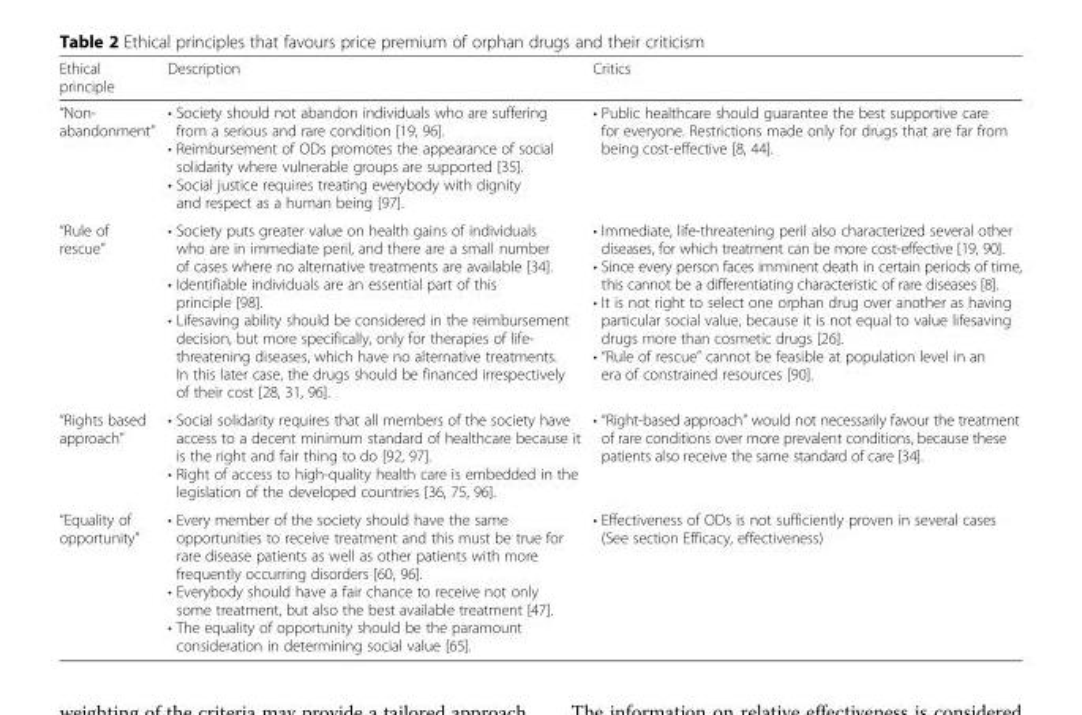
<table><thead><tr><td>Ethical principle</td><td>Description</td><td>Critics</td></tr></thead><tbody><tr><td>“Non- abandonment”</td><td>• Society should not abandon individuals who are suffering from a serious and rare condition [19, 96]. • Reimbursement of ODs promotes the appearance of social solidarity where vulnerable groups are supported [35]. • Social justice requires treating everybody with dignity and respect as a human being [97].</td><td>• Public healthcare should guarantee the best supportive care for everyone. Restrictions made only for drugs that are far from being cost-effective [8, 44].</td></tr><tr><td>“Rule of rescue”</td><td>• Society puts greater value on health gains of individuals who are in immediate peril, and there are a small number of cases where no alternative treatments are available [34]. • Identifiable individuals are an essential part of this principle [98]. • Lifesaving ability should be considered in the reimbursement decision, but more specifically, only for therapies of life- threatening diseases, which have no alternative treatments. In this later case, the drugs should be financed irrespectively of their cost [28, 31, 96].</td><td>• Immediate, life-threatening peril also characterized several other diseases, for which treatment can be more cost-effective [19, 90]. • Since every person faces imminent death in certain periods of time, this cannot be a differentiating characteristic of rare diseases [8]. • It is not right to select one orphan drug over another as having particular social value, because it is not equal to value lifesaving drugs more than cosmetic drugs [26]. • “Rule of rescue” cannot be feasible at population level in an era of constrained resources [90].</td></tr><tr><td>“Rights based approach”</td><td>• Social solidarity requires that all members of the society have access to a decent minimum standard of healthcare because it is the right and fair thing to do [92, 97]. • Right of access to high-quality health care is embedded in the legislation of the developed countries [36, 75, 96].</td><td>• “Right-based approach” would not necessarily favour the treatment of rare conditions over more prevalent conditions, because these patients also receive the same standard of care [34].</td></tr><tr><td>“Equality of opportunity”</td><td>• Every member of the society should have the same opportunities to receive treatment and this must be true for rare disease patients as well as other patients with more frequently occurring disorders [60, 96]. • Everybody should have a fair chance to receive not only some treatment, but also the best available treatment [47]. • The equality of opportunity should be the paramount consideration in determining social value [65].</td><td>• Effectiveness of ODs is not sufficiently proven in several cases (See section Efficacy, effectiveness)</td></tr></tbody></table>